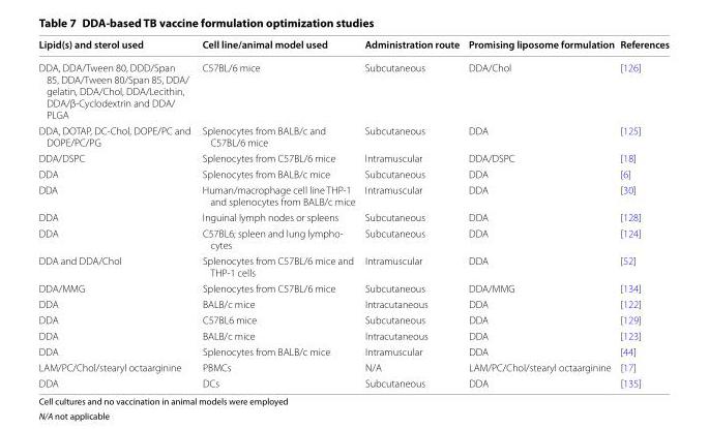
<table><thead><tr><td>Lipid(s) and sterol used</td><td>Cell line/animal model used</td><td>Administration route</td><td>Promising liposome formulation</td><td>References</td></tr></thead><tbody><tr><td>DDA, DDA/Tween 80, DDD/Span 85, DDA/Tween 80/Span 85, DDA/ gelatin, DDA/Chol, DDA/Lecithin, DDA/β-Cyclodextrin and DDA/ PLGA</td><td>C57BL/6 mice</td><td>Subcutaneous</td><td>DDA/Chol</td><td>[126]</td></tr><tr><td>DDA, DOTAP, DC-Chol, DOPE/PC and DOPE/PC/PG</td><td>Splenocytes from BALB/c and C57BL/6 mice</td><td>Subcutaneous</td><td>DDA</td><td>[125]</td></tr><tr><td>DDA/DSPC</td><td>Splenocytes from C57BL/6 mice</td><td>Intramuscular</td><td>DDA/DSPC</td><td>[18]</td></tr><tr><td>DDA</td><td>Splenocytes from BALB/c mice</td><td>Subcutaneous</td><td>DDA</td><td>[6]</td></tr><tr><td>DDA</td><td>Human/macrophage cell line THP-1 and splenocytes from BALB/c mice</td><td>Intramuscular</td><td>DDA</td><td>[30]</td></tr><tr><td>DDA</td><td>Inguinal lymph nodes or spleens</td><td>Subcutaneous</td><td>DDA</td><td>[128]</td></tr><tr><td>DDA</td><td>C57BL6; spleen and lung lympho- cytes</td><td>Subcutaneous</td><td>DDA</td><td>[124]</td></tr><tr><td>DDA and DDA/Chol</td><td>Splenocytes from C57BL/6 mice and THP-1 cells</td><td>Intramuscular</td><td>DDA</td><td>[52]</td></tr><tr><td>DDA/MMG</td><td>Splenocytes from C57BL/6 mice</td><td>Subcutaneous</td><td>DDA/MMG</td><td>[134]</td></tr><tr><td>DDA</td><td>BALB/c mice</td><td>Intracutaneous</td><td>DDA</td><td>[122]</td></tr><tr><td>DDA</td><td>C57BL6 mice</td><td>Subcutaneous</td><td>DDA</td><td>[129]</td></tr><tr><td>DDA</td><td>BALB/c mice</td><td>Intracutaneous</td><td>DDA</td><td>[123]</td></tr><tr><td>DDA</td><td>Splenocytes from BALB/c mice</td><td>Intramuscular</td><td>DDA</td><td>[44]</td></tr><tr><td>LAM/PC/Chol/stearyl octaarginine</td><td>PBMCs</td><td>N/A</td><td>LAM/PC/Chol/stearyl octaarginine</td><td>[17]</td></tr><tr><td>DDA</td><td>DCs</td><td>Subcutaneous</td><td>DDA</td><td>[135]</td></tr></tbody></table>